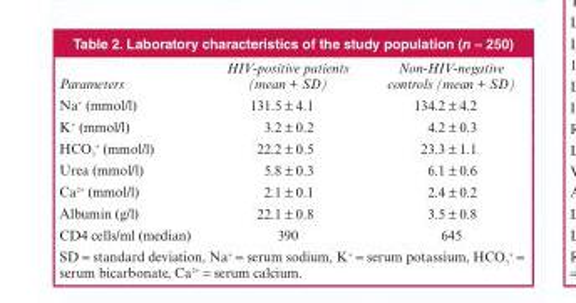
<table><thead><tr><td>Parameters</td><td>HIV-positive patients (mean + SD)</td><td>Non-HIV-negative controls (mean + SD)</td></tr></thead><tbody><tr><td>Na<sup>+</sup> (mmol/l)</td><td>131.5 ± 4.1</td><td>134.2 ± 4.2</td></tr><tr><td>K<sup>+</sup> (mmol/l)</td><td>3.2 ± 0.2</td><td>4.2 ± 0.3</td></tr><tr><td>HCO<sub>3</sub> <sup>+</sup> (mmol/l)</td><td>22.2 ± 0.5</td><td>23.3 ± 1.1</td></tr><tr><td>Urea (mmol/l)</td><td>5.8 ± 0.3</td><td>6.1 ± 0.6</td></tr><tr><td>Ca<sup>2+</sup> (mmol/l)</td><td>2.1 ± 0.1</td><td>2.4 ± 0.2</td></tr><tr><td>Albumin (g/l)</td><td>22.1 ± 0.8</td><td>3.5 ± 0.8</td></tr><tr><td>CD4 cells/ml (median)</td><td>390</td><td>645</td></tr></tbody></table>